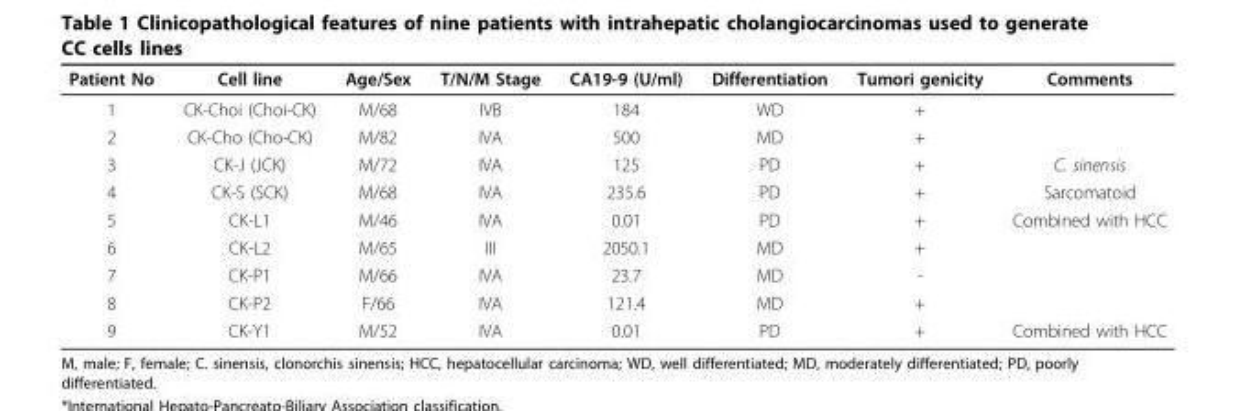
<table><thead><tr><td>Patient No</td><td>Cell line</td><td>Age/Sex</td><td>T/N/M Stage</td><td>CA19-9 (U/ml)</td><td>Differentiation</td><td>Tumori genicity</td><td>Comments</td></tr></thead><tbody><tr><td>1</td><td>CK-Choi (Choi-CK)</td><td>M/68</td><td>IVB</td><td>184</td><td>WD</td><td>+</td><td></td></tr><tr><td>2</td><td>CK-Cho (Cho-CK)</td><td>M/82</td><td>IVA</td><td>500</td><td>MD</td><td>+</td><td></td></tr><tr><td>3</td><td>CK-J (JCK)</td><td>M/72</td><td>IVA</td><td>125</td><td>PD</td><td>+</td><td>C. sinensis</td></tr><tr><td>4</td><td>CK-S (SCK)</td><td>M/68</td><td>IVA</td><td>235.6</td><td>PD</td><td>+</td><td>Sarcomatoid</td></tr><tr><td>5</td><td>CK-L1</td><td>M/46</td><td>IVA</td><td>0.01</td><td>PD</td><td>+</td><td>Combined with HCC</td></tr><tr><td>6</td><td>CK-L2</td><td>M/65</td><td>III</td><td>2050.1</td><td>MD</td><td>+</td><td></td></tr><tr><td>7</td><td>CK-P1</td><td>M/66</td><td>IVA</td><td>23.7</td><td>MD</td><td>-</td><td></td></tr><tr><td>8</td><td>CK-P2</td><td>F/66</td><td>IVA</td><td>121.4</td><td>MD</td><td>+</td><td></td></tr><tr><td>9</td><td>CK-Y1</td><td>M/52</td><td>IVA</td><td>0.01</td><td>PD</td><td>+</td><td>Combined with HCC</td></tr></tbody></table>